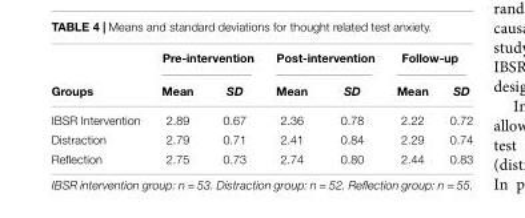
<table><thead><tr><td rowspan="2">Groups</td><td colspan="2">Pre-intervention</td><td colspan="2">Post-intervention</td><td colspan="2">Follow-up</td></tr><tr><td>Mean</td><td>SD</td><td>Mean</td><td>SD</td><td>Mean</td><td>SD</td></tr></thead><tbody><tr><td>IBSR Intervention</td><td>2.89</td><td>0.67</td><td>2.36</td><td>0.78</td><td>2.22</td><td>0.72</td></tr><tr><td>Distraction</td><td>2.79</td><td>0.71</td><td>2.41</td><td>0.84</td><td>2.29</td><td>0.74</td></tr><tr><td>Reflection</td><td>2.75</td><td>0.73</td><td>2.74</td><td>0.80</td><td>2.44</td><td>0.83</td></tr></tbody></table>